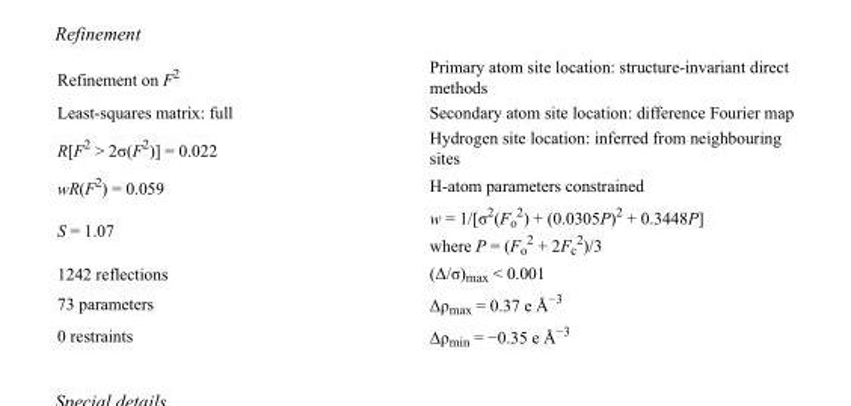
<table><tbody><tr><td>Refinement on F<sup>2</sup></td><td>Primary atom site location: structure-invariant direct methods</td></tr><tr><td>Least-squares matrix: full</td><td>Secondary atom site location: difference Fourier map</td></tr><tr><td>R[F<sup>2</sup> &gt; 2σ(F<sup>2</sup>)] = 0.022</td><td>Hydrogen site location: inferred from neighbouring sites</td></tr><tr><td>wR(F<sup>2</sup>) = 0.059</td><td>H-atom parameters constrained</td></tr><tr><td>S = 1.07</td><td>w = 1/[σ<sup>2</sup>(F<sub>o</sub> <sup>2</sup>) + (0.0305P)<sup>2</sup> + 0.3448P] where P = (F<sub>o</sub> <sup>2</sup> + 2F<sub>c</sub> <sup>2</sup>)/3</td></tr><tr><td>1242 reflections</td><td>(Δ/σ)<sub>max</sub> &lt; 0.001</td></tr><tr><td>73 parameters</td><td>Δρ<sub>max</sub> = 0.37 e Å<sup>−3</sup></td></tr><tr><td>0 restraints</td><td>Δρ<sub>min</sub> = −0.35 e Å<sup>−3</sup></td></tr></tbody></table>